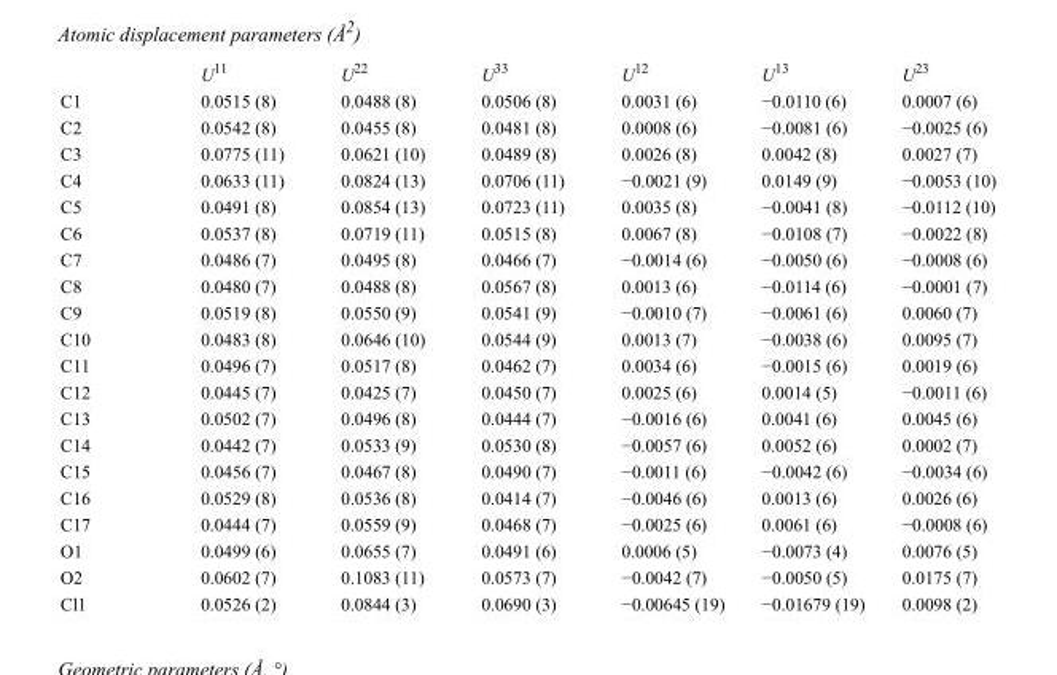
<table><thead><tr><td></td><td>U<sup>11</sup></td><td>U<sup>22</sup></td><td>U<sup>33</sup></td><td>U<sup>12</sup></td><td>U<sup>13</sup></td><td>U<sup>23</sup></td></tr></thead><tbody><tr><td>C1</td><td>0.0515 (8)</td><td>0.0488 (8)</td><td>0.0506 (8)</td><td>0.0031 (6)</td><td>−0.0110 (6)</td><td>0.0007 (6)</td></tr><tr><td>C2</td><td>0.0542 (8)</td><td>0.0455 (8)</td><td>0.0481 (8)</td><td>0.0008 (6)</td><td>−0.0081 (6)</td><td>−0.0025 (6)</td></tr><tr><td>C3</td><td>0.0775 (11)</td><td>0.0621 (10)</td><td>0.0489 (8)</td><td>0.0026 (8)</td><td>0.0042 (8)</td><td>0.0027 (7)</td></tr><tr><td>C4</td><td>0.0633 (11)</td><td>0.0824 (13)</td><td>0.0706 (11)</td><td>−0.0021 (9)</td><td>0.0149 (9)</td><td>−0.0053 (10)</td></tr><tr><td>C5</td><td>0.0491 (8)</td><td>0.0854 (13)</td><td>0.0723 (11)</td><td>0.0035 (8)</td><td>−0.0041 (8)</td><td>−0.0112 (10)</td></tr><tr><td>C6</td><td>0.0537 (8)</td><td>0.0719 (11)</td><td>0.0515 (8)</td><td>0.0067 (8)</td><td>−0.0108 (7)</td><td>−0.0022 (8)</td></tr><tr><td>C7</td><td>0.0486 (7)</td><td>0.0495 (8)</td><td>0.0466 (7)</td><td>−0.0014 (6)</td><td>−0.0050 (6)</td><td>−0.0008 (6)</td></tr><tr><td>C8</td><td>0.0480 (7)</td><td>0.0488 (8)</td><td>0.0567 (8)</td><td>0.0013 (6)</td><td>−0.0114 (6)</td><td>−0.0001 (7)</td></tr><tr><td>C9</td><td>0.0519 (8)</td><td>0.0550 (9)</td><td>0.0541 (9)</td><td>−0.0010 (7)</td><td>−0.0061 (6)</td><td>0.0060 (7)</td></tr><tr><td>C10</td><td>0.0483 (8)</td><td>0.0646 (10)</td><td>0.0544 (9)</td><td>0.0013 (7)</td><td>−0.0038 (6)</td><td>0.0095 (7)</td></tr><tr><td>C11</td><td>0.0496 (7)</td><td>0.0517 (8)</td><td>0.0462 (7)</td><td>0.0034 (6)</td><td>−0.0015 (6)</td><td>0.0019 (6)</td></tr><tr><td>C12</td><td>0.0445 (7)</td><td>0.0425 (7)</td><td>0.0450 (7)</td><td>0.0025 (6)</td><td>0.0014 (5)</td><td>−0.0011 (6)</td></tr><tr><td>C13</td><td>0.0502 (7)</td><td>0.0496 (8)</td><td>0.0444 (7)</td><td>−0.0016 (6)</td><td>0.0041 (6)</td><td>0.0045 (6)</td></tr><tr><td>C14</td><td>0.0442 (7)</td><td>0.0533 (9)</td><td>0.0530 (8)</td><td>−0.0057 (6)</td><td>0.0052 (6)</td><td>0.0002 (7)</td></tr><tr><td>C15</td><td>0.0456 (7)</td><td>0.0467 (8)</td><td>0.0490 (7)</td><td>−0.0011 (6)</td><td>−0.0042 (6)</td><td>−0.0034 (6)</td></tr><tr><td>C16</td><td>0.0529 (8)</td><td>0.0536 (8)</td><td>0.0414 (7)</td><td>−0.0046 (6)</td><td>0.0013 (6)</td><td>0.0026 (6)</td></tr><tr><td>C17</td><td>0.0444 (7)</td><td>0.0559 (9)</td><td>0.0468 (7)</td><td>−0.0025 (6)</td><td>0.0061 (6)</td><td>−0.0008 (6)</td></tr><tr><td>O1</td><td>0.0499 (6)</td><td>0.0655 (7)</td><td>0.0491 (6)</td><td>0.0006 (5)</td><td>−0.0073 (4)</td><td>0.0076 (5)</td></tr><tr><td>O2</td><td>0.0602 (7)</td><td>0.1083 (11)</td><td>0.0573 (7)</td><td>−0.0042 (7)</td><td>−0.0050 (5)</td><td>0.0175 (7)</td></tr><tr><td>Cl1</td><td>0.0526 (2)</td><td>0.0844 (3)</td><td>0.0690 (3)</td><td>−0.00645 (19)</td><td>−0.01679 (19)</td><td>0.0098 (2)</td></tr></tbody></table>